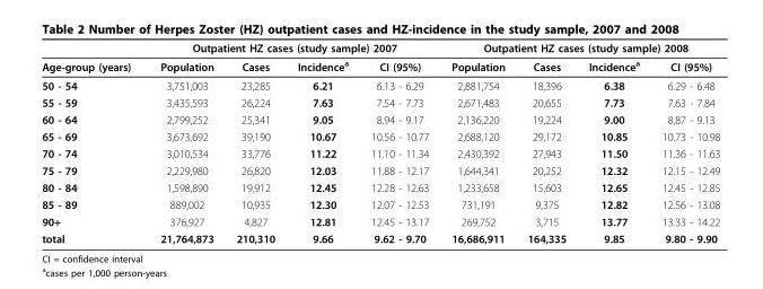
<table><thead><tr><td rowspan="2">Age-group (years)</td><td colspan="4">Outpatient HZ cases (study sample) 2007</td><td colspan="4">Outpatient HZ cases (study sample) 2008</td></tr><tr><td>Population</td><td>Cases</td><td>Incidence<sup>a</sup></td><td>CI (95%)</td><td>Population</td><td>Cases</td><td>Incidence<sup>a</sup></td><td>CI (95%)</td></tr></thead><tbody><tr><td>50 - 54</td><td>3,751,003</td><td>23,285</td><td>6.21</td><td>6.13 - 6.29</td><td>2,881,754</td><td>18,396</td><td>6.38</td><td>6.29 - 6.48</td></tr><tr><td>55 - 59</td><td>3,435,593</td><td>26,224</td><td>7.63</td><td>7.54 - 7.73</td><td>2,671,483</td><td>20,655</td><td>7.73</td><td>7.63 - 7.84</td></tr><tr><td>60 - 64</td><td>2,799,252</td><td>25,341</td><td>9.05</td><td>8.94 - 9.17</td><td>2,136,220</td><td>19,224</td><td>9.00</td><td>8.87 - 9.13</td></tr><tr><td>65 - 69</td><td>3,673,692</td><td>39,190</td><td>10.67</td><td>10.56 - 10.77</td><td>2,688,120</td><td>29,172</td><td>10.85</td><td>10.73 - 10.98</td></tr><tr><td>70 - 74</td><td>3,010,534</td><td>33,776</td><td>11.22</td><td>11.10 - 11.34</td><td>2,430,392</td><td>27,943</td><td>11.50</td><td>11.36 - 11.63</td></tr><tr><td>75 - 79</td><td>2,229,980</td><td>26,820</td><td>12.03</td><td>11.88 - 12.17</td><td>1,644,341</td><td>20,252</td><td>12.32</td><td>12.15 - 12.49</td></tr><tr><td>80 - 84</td><td>1,598,890</td><td>19,912</td><td>12.45</td><td>12.28 - 12.63</td><td>1,233,658</td><td>15,603</td><td>12.65</td><td>12.45 - 12.85</td></tr><tr><td>85 - 89</td><td>889,002</td><td>10,935</td><td>12.30</td><td>12.07 - 12.53</td><td>731,191</td><td>9,375</td><td>12.82</td><td>12.56 - 13.08</td></tr><tr><td>90+</td><td>376,927</td><td>4,827</td><td>12.81</td><td>12.45 - 13.17</td><td>269,752</td><td>3,715</td><td>13.77</td><td>13.33 - 14.22</td></tr><tr><td>total</td><td>21,764,873</td><td>210,310</td><td>9.66</td><td>9.62 - 9.70</td><td>16,686,911</td><td>164,335</td><td>9.85</td><td>9.80 - 9.90</td></tr></tbody></table>